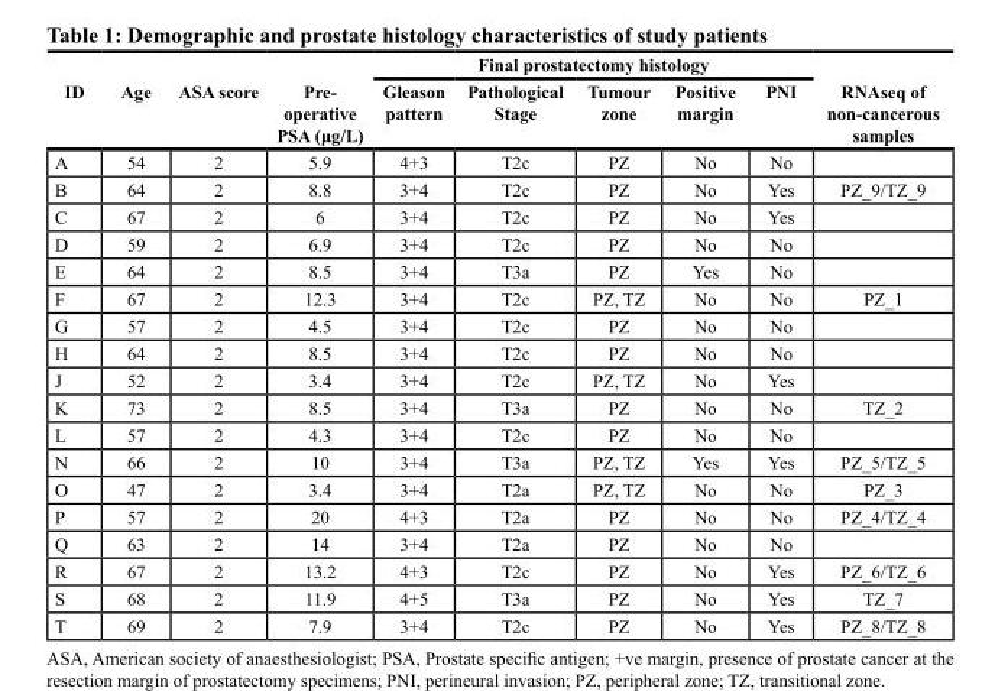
<table><thead><tr><td rowspan="2">ID</td><td rowspan="2">Age</td><td rowspan="2">ASA score</td><td rowspan="2">Pre- operative PSA (μg/L)</td><td colspan="5">Final prostatectomy histology</td><td rowspan="2">RNAseq of non-cancerous samples</td></tr><tr><td>Gleason pattern</td><td>Pathological Stage</td><td>Tumour zone</td><td>Positive margin</td><td>PNI</td></tr></thead><tbody><tr><td>A</td><td>54</td><td>2</td><td>5.9</td><td>4+3</td><td>T2c</td><td>PZ</td><td>No</td><td>No</td><td></td></tr><tr><td>B</td><td>64</td><td>2</td><td>8.8</td><td>3+4</td><td>T2c</td><td>PZ</td><td>No</td><td>Yes</td><td>PZ_9/TZ_9</td></tr><tr><td>C</td><td>67</td><td>2</td><td>6</td><td>3+4</td><td>T2c</td><td>PZ</td><td>No</td><td>Yes</td><td></td></tr><tr><td>D</td><td>59</td><td>2</td><td>6.9</td><td>3+4</td><td>T2c</td><td>PZ</td><td>No</td><td>No</td><td></td></tr><tr><td>E</td><td>64</td><td>2</td><td>8.5</td><td>3+4</td><td>T3a</td><td>PZ</td><td>Yes</td><td>No</td><td></td></tr><tr><td>F</td><td>67</td><td>2</td><td>12.3</td><td>3+4</td><td>T2c</td><td>PZ, TZ</td><td>No</td><td>No</td><td>PZ_1</td></tr><tr><td>G</td><td>57</td><td>2</td><td>4.5</td><td>3+4</td><td>T2c</td><td>PZ</td><td>No</td><td>No</td><td></td></tr><tr><td>H</td><td>64</td><td>2</td><td>8.5</td><td>3+4</td><td>T2c</td><td>PZ</td><td>No</td><td>No</td><td></td></tr><tr><td>J</td><td>52</td><td>2</td><td>3.4</td><td>3+4</td><td>T2c</td><td>PZ, TZ</td><td>No</td><td>Yes</td><td></td></tr><tr><td>K</td><td>73</td><td>2</td><td>8.5</td><td>3+4</td><td>T3a</td><td>PZ</td><td>No</td><td>No</td><td>TZ_2</td></tr><tr><td>L</td><td>57</td><td>2</td><td>4.3</td><td>3+4</td><td>T2c</td><td>PZ</td><td>No</td><td>No</td><td></td></tr><tr><td>N</td><td>66</td><td>2</td><td>10</td><td>3+4</td><td>T3a</td><td>PZ, TZ</td><td>Yes</td><td>Yes</td><td>PZ_5/TZ_5</td></tr><tr><td>O</td><td>47</td><td>2</td><td>3.4</td><td>3+4</td><td>T2a</td><td>PZ, TZ</td><td>No</td><td>No</td><td>PZ_3</td></tr><tr><td>P</td><td>57</td><td>2</td><td>20</td><td>4+3</td><td>T2a</td><td>PZ</td><td>No</td><td>No</td><td>PZ_4/TZ_4</td></tr><tr><td>Q</td><td>63</td><td>2</td><td>14</td><td>3+4</td><td>T2a</td><td>PZ</td><td>No</td><td>No</td><td></td></tr><tr><td>R</td><td>67</td><td>2</td><td>13.2</td><td>4+3</td><td>T2c</td><td>PZ</td><td>No</td><td>Yes</td><td>PZ_6/TZ_6</td></tr><tr><td>S</td><td>68</td><td>2</td><td>11.9</td><td>4+5</td><td>T3a</td><td>PZ</td><td>No</td><td>Yes</td><td>TZ_7</td></tr><tr><td>T</td><td>69</td><td>2</td><td>7.9</td><td>3+4</td><td>T2c</td><td>PZ</td><td>No</td><td>Yes</td><td>PZ_8/TZ_8</td></tr></tbody></table>